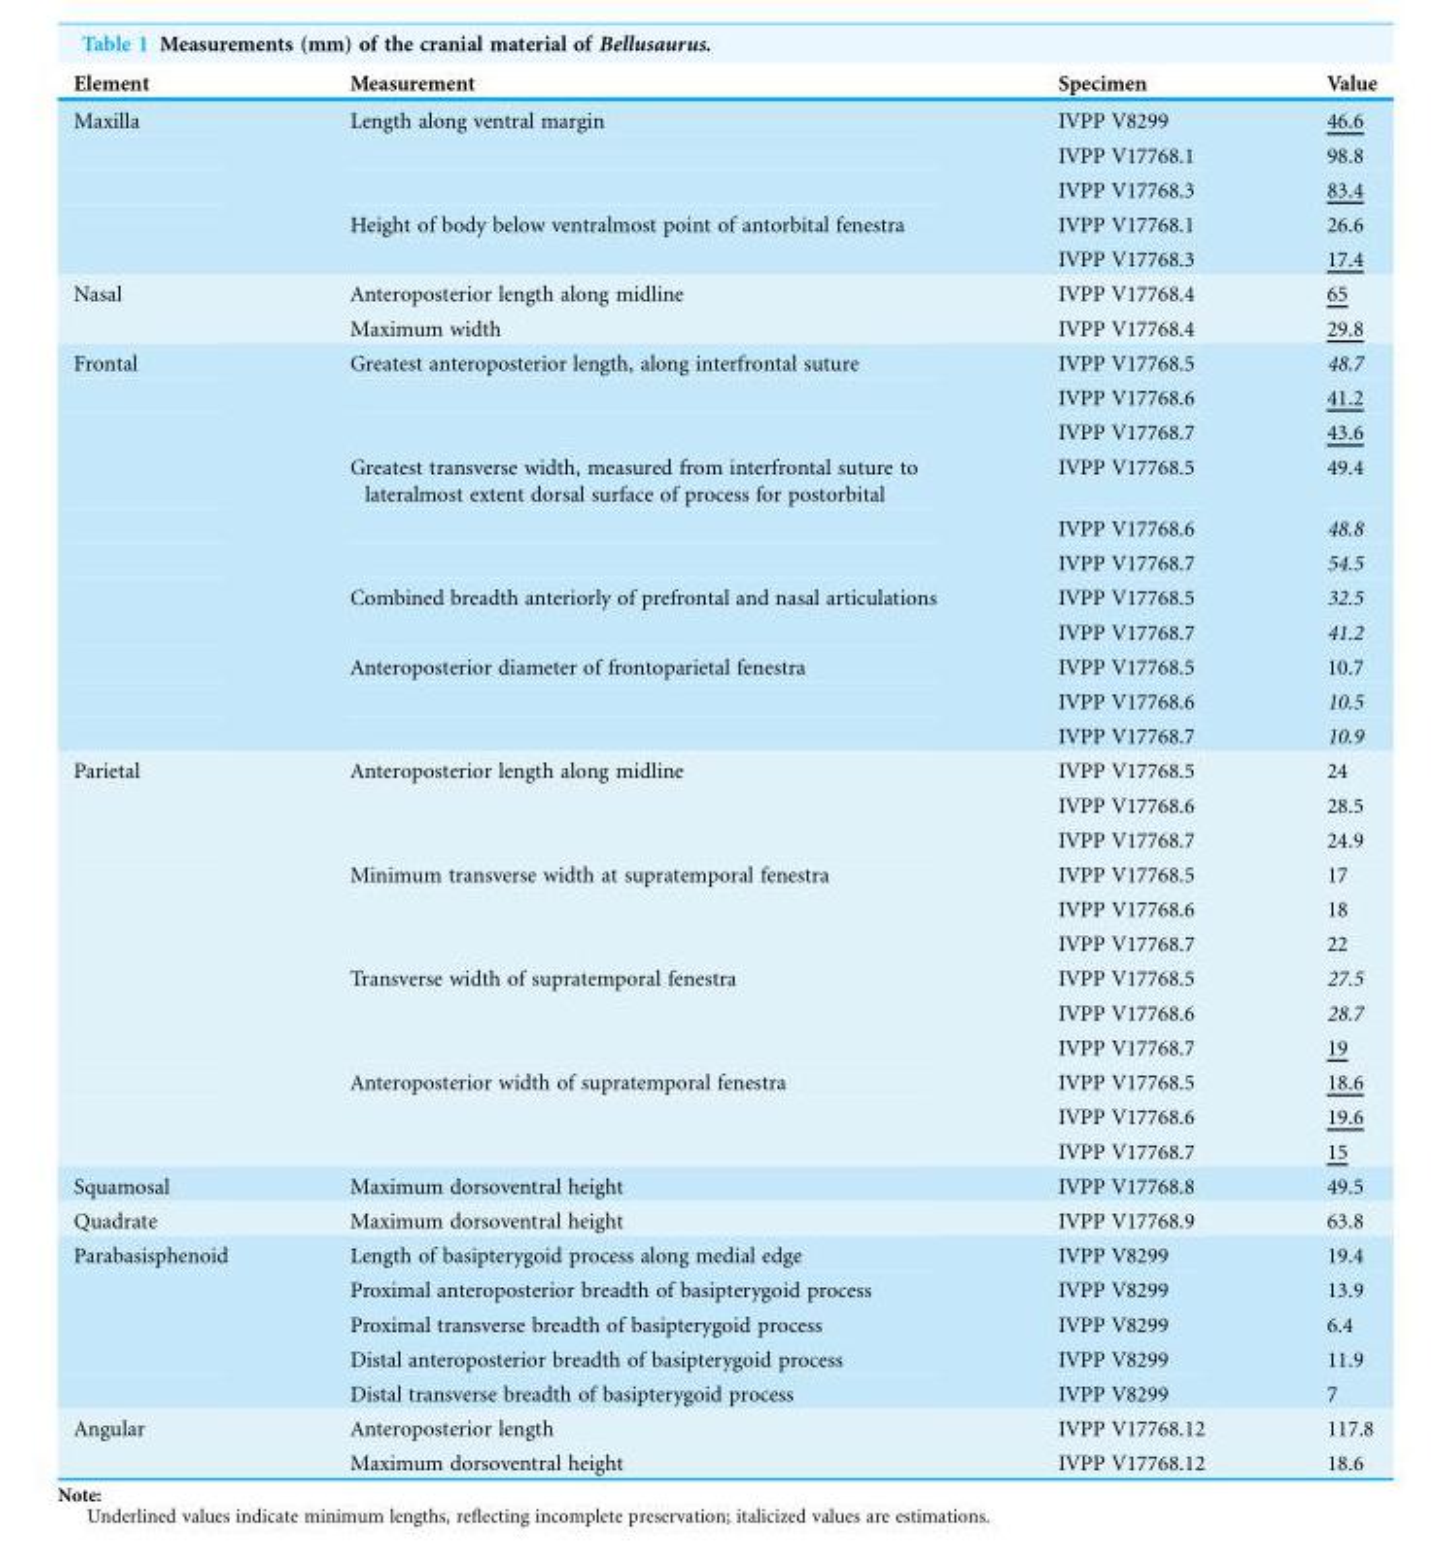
<table><thead><tr><td>Element</td><td>Measurement</td><td>Specimen</td><td>Value</td></tr></thead><tbody><tr><td rowspan="5">Maxilla</td><td>Length along ventral margin</td><td>IVPP V8299</td><td>46.6</td></tr><tr><td></td><td>IVPP V17768.1</td><td>98.8</td></tr><tr><td></td><td>IVPP V17768.3</td><td>83.4</td></tr><tr><td>Height of body below ventralmost point of antorbital fenestra</td><td>IVPP V17768.1</td><td>26.6</td></tr><tr><td></td><td>IVPP V17768.3</td><td>17.4</td></tr><tr><td rowspan="2">Nasal</td><td>Anteroposterior length along midline</td><td>IVPP V17768.4</td><td>65</td></tr><tr><td>Maximum width</td><td>IVPP V17768.4</td><td>29.8</td></tr><tr><td rowspan="11">Frontal</td><td>Greatest anteroposterior length, along interfrontal suture</td><td>IVPP V17768.5</td><td>48.7</td></tr><tr><td></td><td>IVPP V17768.6</td><td>41.2</td></tr><tr><td></td><td>IVPP V17768.7</td><td>43.6</td></tr><tr><td>Greatest transverse width, measured from interfrontal suture to lateralmost extent dorsal surface of process for postorbital</td><td>IVPP V17768.5</td><td>49.4</td></tr><tr><td></td><td>IVPP V17768.6</td><td>48.8</td></tr><tr><td></td><td>IVPP V17768.7</td><td>54.5</td></tr><tr><td>Combined breadth anteriorly of prefrontal and nasal articulations</td><td>IVPP V17768.5</td><td>32.5</td></tr><tr><td></td><td>IVPP V17768.7</td><td>41.2</td></tr><tr><td>Anteroposterior diameter of frontoparietal fenestra</td><td>IVPP V17768.5</td><td>10.7</td></tr><tr><td></td><td>IVPP V17768.6</td><td>10.5</td></tr><tr><td></td><td>IVPP V17768.7</td><td>10.9</td></tr><tr><td rowspan="12">Parietal</td><td>Anteroposterior length along midline</td><td>IVPP V17768.5</td><td>24</td></tr><tr><td></td><td>IVPP V17768.6</td><td>28.5</td></tr><tr><td></td><td>IVPP V17768.7</td><td>24.9</td></tr><tr><td>Minimum transverse width at supratemporal fenestra</td><td>IVPP V17768.5</td><td>17</td></tr><tr><td></td><td>IVPP V17768.6</td><td>18</td></tr><tr><td></td><td>IVPP V17768.7</td><td>22</td></tr><tr><td>Transverse width of supratemporal fenestra</td><td>IVPP V17768.5</td><td>27.5</td></tr><tr><td></td><td>IVPP V17768.6</td><td>28.7</td></tr><tr><td></td><td>IVPP V17768.7</td><td>19</td></tr><tr><td>Anteroposterior width of supratemporal fenestra</td><td>IVPP V17768.5</td><td>18.6</td></tr><tr><td></td><td>IVPP V17768.6</td><td>19.6</td></tr><tr><td></td><td>IVPP V17768.7</td><td>15</td></tr><tr><td>Squamosal</td><td>Maximum dorsoventral height</td><td>IVPP V17768.8</td><td>49.5</td></tr><tr><td>Quadrate</td><td>Maximum dorsoventral height</td><td>IVPP V17768.9</td><td>63.8</td></tr><tr><td rowspan="5">Parabasisphenoid</td><td>Length of basipterygoid process along medial edge</td><td>IVPP V8299</td><td>19.4</td></tr><tr><td>Proximal anteroposterior breadth of basipterygoid process</td><td>IVPP V8299</td><td>13.9</td></tr><tr><td>Proximal transverse breadth of basipterygoid process</td><td>IVPP V8299</td><td>6.4</td></tr><tr><td>Distal anteroposterior breadth of basipterygoid process</td><td>IVPP V8299</td><td>11.9</td></tr><tr><td>Distal transverse breadth of basipterygoid process</td><td>IVPP V8299</td><td>7</td></tr><tr><td rowspan="2">Angular</td><td>Anteroposterior length</td><td>IVPP V17768.12</td><td>117.8</td></tr><tr><td>Maximum dorsoventral height</td><td>IVPP V17768.12</td><td>18.6</td></tr></tbody></table>